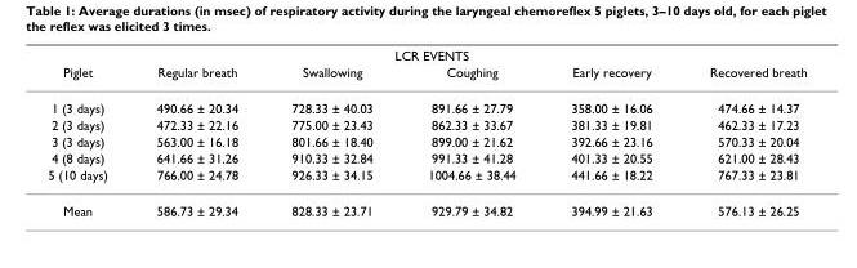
<table><thead><tr><td colspan="6">LCR EVENTS</td></tr><tr><td>Piglet</td><td>Regular breath</td><td>Swallowing</td><td>Coughing</td><td>Early recovery</td><td>Recovered breath</td></tr></thead><tbody><tr><td>1 (3 days)</td><td>490.66 ± 20.34</td><td>728.33 ± 40.03</td><td>891.66 ± 27.79</td><td>358.00 ± 16.06</td><td>474.66 ± 14.37</td></tr><tr><td>2 (3 days)</td><td>472.33 ± 22.16</td><td>775.00 ± 23.43</td><td>862.33 ± 33.67</td><td>381.33 ± 19.81</td><td>462.33 ± 17.23</td></tr><tr><td>3 (3 days)</td><td>563.00 ± 16.18</td><td>801.66 ± 18.40</td><td>899.00 ± 21.62</td><td>392.66 ± 23.16</td><td>570.33 ± 20.04</td></tr><tr><td>4 (8 days)</td><td>641.66 ± 31.26</td><td>910.33 ± 32.84</td><td>991.33 ± 41.28</td><td>401.33 ± 20.55</td><td>621.00 ± 28.43</td></tr><tr><td>5 (10 days)</td><td>766.00 ± 24.78</td><td>926.33 ± 34.15</td><td>1004.66 ± 38.44</td><td>441.66 ± 18.22</td><td>767.33 ± 23.81</td></tr><tr><td>Mean</td><td>586.73 ± 29.34</td><td>828.33 ± 23.71</td><td>929.79 ± 34.82</td><td>394.99 ± 21.63</td><td>576.13 ± 26.25</td></tr></tbody></table>